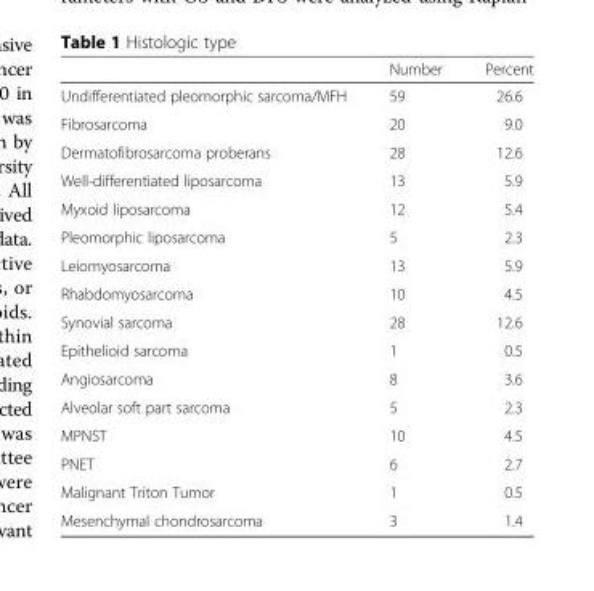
<table><thead><tr><td></td><td>Number</td><td>Percent</td></tr></thead><tbody><tr><td>Undifferentiated pleomorphic sarcoma/MFH</td><td>59</td><td>26.6</td></tr><tr><td>Fibrosarcoma</td><td>20</td><td>9.0</td></tr><tr><td>Dermatofibrosarcoma proberans</td><td>28</td><td>12.6</td></tr><tr><td>Well-differentiated liposarcoma</td><td>13</td><td>5.9</td></tr><tr><td>Myxoid liposarcoma</td><td>12</td><td>5.4</td></tr><tr><td>Pleomorphic liposarcoma</td><td>5</td><td>2.3</td></tr><tr><td>Leiomyosarcoma</td><td>13</td><td>5.9</td></tr><tr><td>Rhabdomyosarcoma</td><td>10</td><td>4.5</td></tr><tr><td>Synovial sarcoma</td><td>28</td><td>12.6</td></tr><tr><td>Epithelioid sarcoma</td><td>1</td><td>0.5</td></tr><tr><td>Angiosarcoma</td><td>8</td><td>3.6</td></tr><tr><td>Alveolar soft part sarcoma</td><td>5</td><td>2.3</td></tr><tr><td>MPNST</td><td>10</td><td>4.5</td></tr><tr><td>PNET</td><td>6</td><td>2.7</td></tr><tr><td>Malignant Triton Tumor</td><td>1</td><td>0.5</td></tr><tr><td>Mesenchymal chondrosarcoma</td><td>3</td><td>1.4</td></tr></tbody></table>